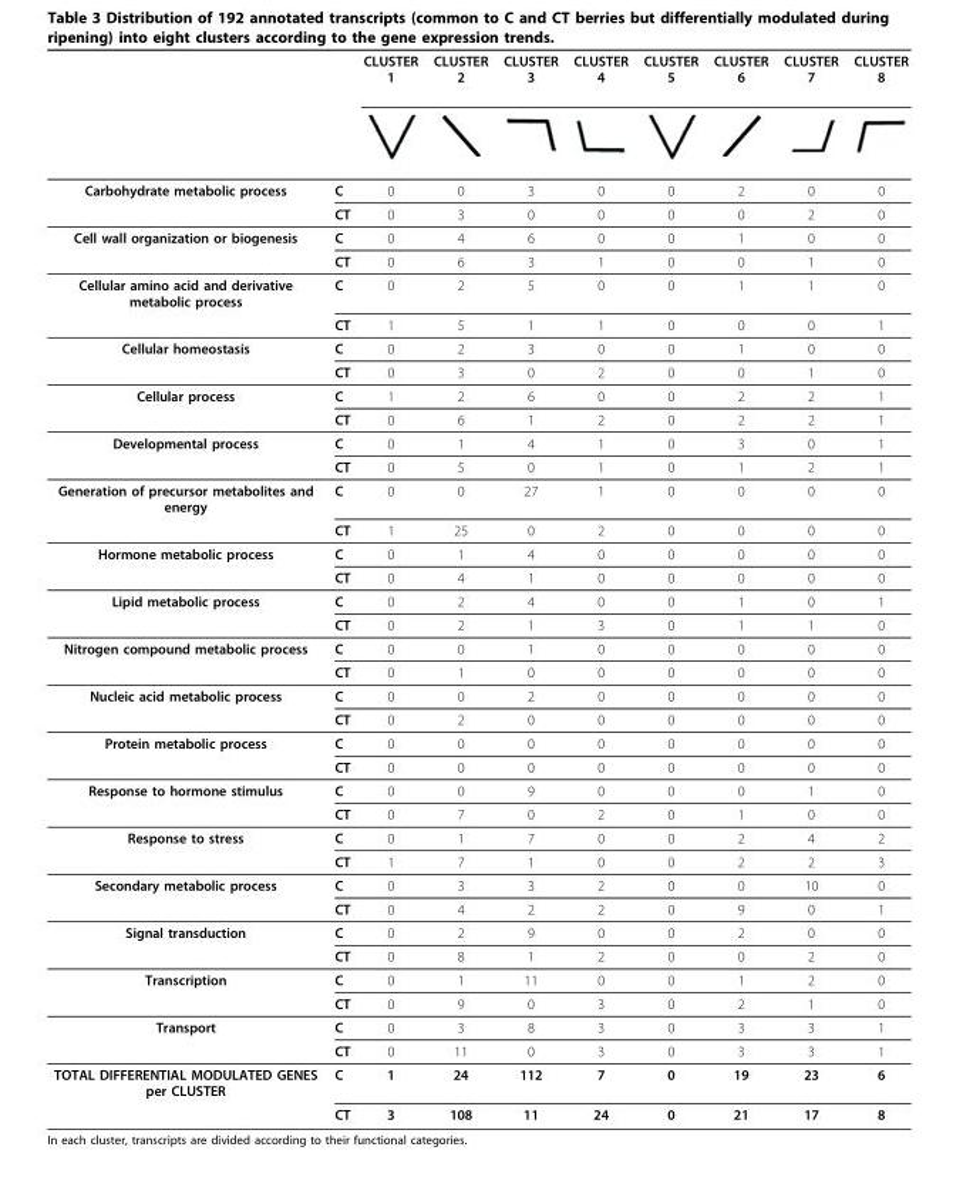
<table><thead><tr><td></td><td></td><td>CLUSTER 1</td><td>CLUSTER 2</td><td>CLUSTER 3</td><td>CLUSTER 4</td><td>CLUSTER 5</td><td>CLUSTER 6</td><td>CLUSTER 7</td><td>CLUSTER 8</td></tr></thead><tbody><tr><td rowspan="2">Carbohydrate metabolic process</td><td>C</td><td>0</td><td>0</td><td>3</td><td>0</td><td>0</td><td>2</td><td>0</td><td>0</td></tr><tr><td>CT</td><td>0</td><td>3</td><td>0</td><td>0</td><td>0</td><td>0</td><td>2</td><td>0</td></tr><tr><td rowspan="2">Cell wall organization or biogenesis</td><td>C</td><td>0</td><td>4</td><td>6</td><td>0</td><td>0</td><td>1</td><td>0</td><td>0</td></tr><tr><td>CT</td><td>0</td><td>6</td><td>3</td><td>1</td><td>0</td><td>0</td><td>1</td><td>0</td></tr><tr><td rowspan="2">Cellular amino acid and derivative metabolic process</td><td>C</td><td>0</td><td>2</td><td>5</td><td>0</td><td>0</td><td>1</td><td>1</td><td>0</td></tr><tr><td>CT</td><td>1</td><td>5</td><td>1</td><td>1</td><td>0</td><td>0</td><td>0</td><td>1</td></tr><tr><td rowspan="2">Cellular homeostasis</td><td>C</td><td>0</td><td>2</td><td>3</td><td>0</td><td>0</td><td>1</td><td>0</td><td>0</td></tr><tr><td>CT</td><td>0</td><td>3</td><td>0</td><td>2</td><td>0</td><td>0</td><td>1</td><td>0</td></tr><tr><td rowspan="2">Cellular process</td><td>C</td><td>1</td><td>2</td><td>6</td><td>0</td><td>0</td><td>2</td><td>2</td><td>1</td></tr><tr><td>CT</td><td>0</td><td>6</td><td>1</td><td>2</td><td>0</td><td>2</td><td>2</td><td>1</td></tr><tr><td rowspan="2">Developmental process</td><td>C</td><td>0</td><td>1</td><td>4</td><td>1</td><td>0</td><td>3</td><td>0</td><td>1</td></tr><tr><td>CT</td><td>0</td><td>5</td><td>0</td><td>1</td><td>0</td><td>1</td><td>2</td><td>1</td></tr><tr><td rowspan="2">Generation of precursor metabolites and energy</td><td>C</td><td>0</td><td>0</td><td>27</td><td>1</td><td>0</td><td>0</td><td>0</td><td>0</td></tr><tr><td>CT</td><td>1</td><td>25</td><td>0</td><td>2</td><td>0</td><td>0</td><td>0</td><td>0</td></tr><tr><td rowspan="2">Hormone metabolic process</td><td>C</td><td>0</td><td>1</td><td>4</td><td>0</td><td>0</td><td>0</td><td>0</td><td>0</td></tr><tr><td>CT</td><td>0</td><td>4</td><td>1</td><td>0</td><td>0</td><td>0</td><td>0</td><td>0</td></tr><tr><td rowspan="2">Lipid metabolic process</td><td>C</td><td>0</td><td>2</td><td>4</td><td>0</td><td>0</td><td>1</td><td>0</td><td>1</td></tr><tr><td>CT</td><td>0</td><td>2</td><td>1</td><td>3</td><td>0</td><td>1</td><td>1</td><td>0</td></tr><tr><td rowspan="2">Nitrogen compound metabolic process</td><td>C</td><td>0</td><td>0</td><td>1</td><td>0</td><td>0</td><td>0</td><td>0</td><td>0</td></tr><tr><td>CT</td><td>0</td><td>1</td><td>0</td><td>0</td><td>0</td><td>0</td><td>0</td><td>0</td></tr><tr><td rowspan="2">Nucleic acid metabolic process</td><td>C</td><td>0</td><td>0</td><td>2</td><td>0</td><td>0</td><td>0</td><td>0</td><td>0</td></tr><tr><td>CT</td><td>0</td><td>2</td><td>0</td><td>0</td><td>0</td><td>0</td><td>0</td><td>0</td></tr><tr><td rowspan="2">Protein metabolic process</td><td>C</td><td>0</td><td>0</td><td>0</td><td>0</td><td>0</td><td>0</td><td>0</td><td>0</td></tr><tr><td>CT</td><td>0</td><td>0</td><td>0</td><td>0</td><td>0</td><td>0</td><td>0</td><td>0</td></tr><tr><td rowspan="2">Response to hormone stimulus</td><td>C</td><td>0</td><td>0</td><td>9</td><td>0</td><td>0</td><td>0</td><td>1</td><td>0</td></tr><tr><td>CT</td><td>0</td><td>7</td><td>0</td><td>2</td><td>0</td><td>1</td><td>0</td><td>0</td></tr><tr><td rowspan="2">Response to stress</td><td>C</td><td>0</td><td>1</td><td>7</td><td>0</td><td>0</td><td>2</td><td>4</td><td>2</td></tr><tr><td>CT</td><td>1</td><td>7</td><td>1</td><td>0</td><td>0</td><td>2</td><td>2</td><td>3</td></tr><tr><td rowspan="2">Secondary metabolic process</td><td>C</td><td>0</td><td>3</td><td>3</td><td>2</td><td>0</td><td>0</td><td>10</td><td>0</td></tr><tr><td>CT</td><td>0</td><td>4</td><td>2</td><td>2</td><td>0</td><td>9</td><td>0</td><td>1</td></tr><tr><td rowspan="2">Signal transduction</td><td>C</td><td>0</td><td>2</td><td>9</td><td>0</td><td>0</td><td>2</td><td>0</td><td>0</td></tr><tr><td>CT</td><td>0</td><td>8</td><td>1</td><td>2</td><td>0</td><td>0</td><td>2</td><td>0</td></tr><tr><td rowspan="2">Transcription</td><td>C</td><td>0</td><td>1</td><td>11</td><td>0</td><td>0</td><td>1</td><td>2</td><td>0</td></tr><tr><td>CT</td><td>0</td><td>9</td><td>0</td><td>3</td><td>0</td><td>2</td><td>1</td><td>0</td></tr><tr><td rowspan="2">Transport</td><td>C</td><td>0</td><td>3</td><td>8</td><td>3</td><td>0</td><td>3</td><td>3</td><td>1</td></tr><tr><td>CT</td><td>0</td><td>11</td><td>0</td><td>3</td><td>0</td><td>3</td><td>3</td><td>1</td></tr><tr><td rowspan="2">TOTAL DIFFERENTIAL MODULATED GENES per CLUSTER</td><td>C</td><td>1</td><td>24</td><td>112</td><td>7</td><td>0</td><td>19</td><td>23</td><td>6</td></tr><tr><td>CT</td><td>3</td><td>108</td><td>11</td><td>24</td><td>0</td><td>21</td><td>17</td><td>8</td></tr></tbody></table>